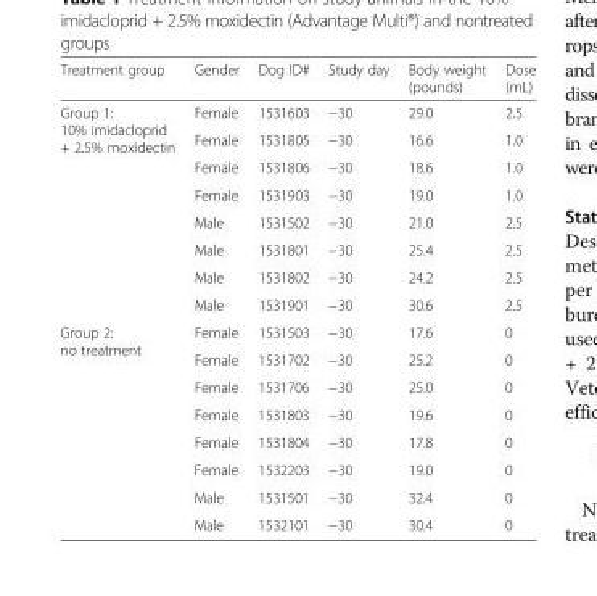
<table><thead><tr><td>Treatment group</td><td>Gender</td><td>Dog ID#</td><td>Study day</td><td>Body weight (pounds)</td><td>Dose (mL)</td></tr></thead><tbody><tr><td rowspan="8">Group 1: 10% imidacloprid + 2.5% moxidectin</td><td>Female</td><td>1531603</td><td>−30</td><td>29.0</td><td>2.5</td></tr><tr><td>Female</td><td>1531805</td><td>−30</td><td>16.6</td><td>1.0</td></tr><tr><td>Female</td><td>1531806</td><td>−30</td><td>18.6</td><td>1.0</td></tr><tr><td>Female</td><td>1531903</td><td>−30</td><td>19.0</td><td>1.0</td></tr><tr><td>Male</td><td>1531502</td><td>−30</td><td>21.0</td><td>2.5</td></tr><tr><td>Male</td><td>1531801</td><td>−30</td><td>25.4</td><td>2.5</td></tr><tr><td>Male</td><td>1531802</td><td>−30</td><td>24.2</td><td>2.5</td></tr><tr><td>Male</td><td>1531901</td><td>−30</td><td>30.6</td><td>2.5</td></tr><tr><td rowspan="8">Group 2: no treatment</td><td>Female</td><td>1531503</td><td>−30</td><td>17.6</td><td>0</td></tr><tr><td>Female</td><td>1531702</td><td>−30</td><td>25.2</td><td>0</td></tr><tr><td>Female</td><td>1531706</td><td>−30</td><td>25.0</td><td>0</td></tr><tr><td>Female</td><td>1531803</td><td>−30</td><td>19.6</td><td>0</td></tr><tr><td>Female</td><td>1531804</td><td>−30</td><td>17.8</td><td>0</td></tr><tr><td>Female</td><td>1532203</td><td>−30</td><td>19.0</td><td>0</td></tr><tr><td>Male</td><td>1531501</td><td>−30</td><td>32.4</td><td>0</td></tr><tr><td>Male</td><td>1532101</td><td>−30</td><td>30.4</td><td>0</td></tr></tbody></table>